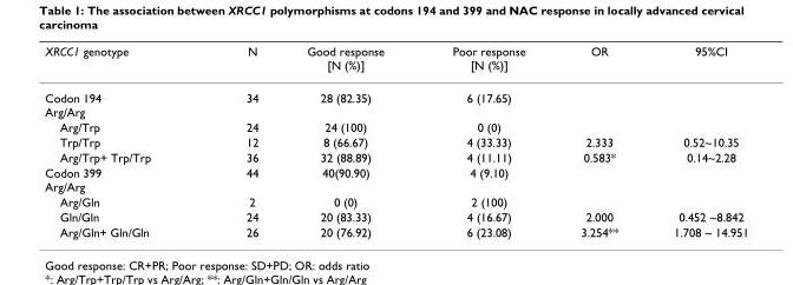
<table><thead><tr><td>XRCC1 genotype</td><td>N</td><td>Good response [N (%)]</td><td>Poor response [N (%)]</td><td>OR</td><td>95%CI</td></tr></thead><tbody><tr><td>Codon 194 Arg/Arg</td><td>34</td><td>28 (82.35)</td><td>6 (17.65)</td><td></td><td></td></tr><tr><td>Arg/Trp</td><td>24</td><td>24 (100)</td><td>0 (0)</td><td></td><td></td></tr><tr><td>Trp/Trp</td><td>12</td><td>8 (66.67)</td><td>4 (33.33)</td><td>2.333</td><td>0.52~10.35</td></tr><tr><td>Arg/Trp+ Trp/Trp</td><td>36</td><td>32 (88.89)</td><td>4 (11.11)</td><td>0.583*</td><td>0.14~2.28</td></tr><tr><td>Codon 399 Arg/Arg</td><td>44</td><td>40(90.90)</td><td>4 (9.10)</td><td></td><td></td></tr><tr><td>Arg/Gln</td><td>2</td><td>0 (0)</td><td>2 (100)</td><td></td><td></td></tr><tr><td>Gln/Gln</td><td>24</td><td>20 (83.33)</td><td>4 (16.67)</td><td>2.000</td><td>0.452 ~8.842</td></tr><tr><td>Arg/Gln+ Gln/Gln</td><td>26</td><td>20 (76.92)</td><td>6 (23.08)</td><td>3.254**</td><td>1.708 ~ 14.951</td></tr></tbody></table>